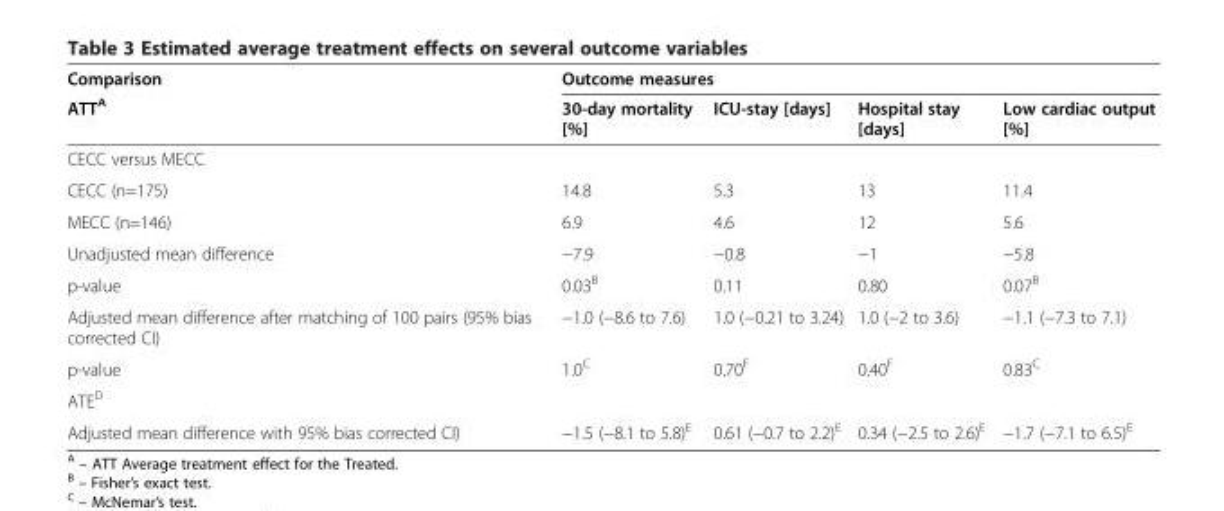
<table><thead><tr><td rowspan="2">Comparison ATT<sup>A</sup></td><td colspan="4">Outcome measures</td></tr><tr><td>30-day mortality [%]</td><td>ICU-stay [days]</td><td>Hospital stay [days]</td><td>Low cardiac output [%]</td></tr></thead><tbody><tr><td colspan="5">CECC versus MECC</td></tr><tr><td>CECC (n=175)</td><td>14.8</td><td>5.3</td><td>13</td><td>11.4</td></tr><tr><td>MECC (n=146)</td><td>6.9</td><td>4.6</td><td>12</td><td>5.6</td></tr><tr><td>Unadjusted mean difference</td><td>−7.9</td><td>−0.8</td><td>−1</td><td>−5.8</td></tr><tr><td>p-value</td><td>0.03<sup>B</sup></td><td>0.11</td><td>0.80</td><td>0.07<sup>B</sup></td></tr><tr><td>Adjusted mean difference after matching of 100 pairs (95% bias corrected CI)</td><td>−1.0 (−8.6 to 7.6)</td><td>1.0 (−0.21 to 3.24)</td><td>1.0 (−2 to 3.6)</td><td>−1.1 (−7.3 to 7.1)</td></tr><tr><td>p-value</td><td>1.0<sup>C</sup></td><td>0.70<sup>F</sup></td><td>0.40<sup>F</sup></td><td>0.83<sup>C</sup></td></tr><tr><td colspan="5">ATE<sup>D</sup></td></tr><tr><td>Adjusted mean difference with 95% bias corrected CI)</td><td>−1.5 (−8.1 to 5.8)<sup>E</sup></td><td>0.61 (−0.7 to 2.2)<sup>E</sup></td><td>0.34 (−2.5 to 2.6)<sup>E</sup></td><td>−1.7 (−7.1 to 6.5)<sup>E</sup></td></tr></tbody></table>